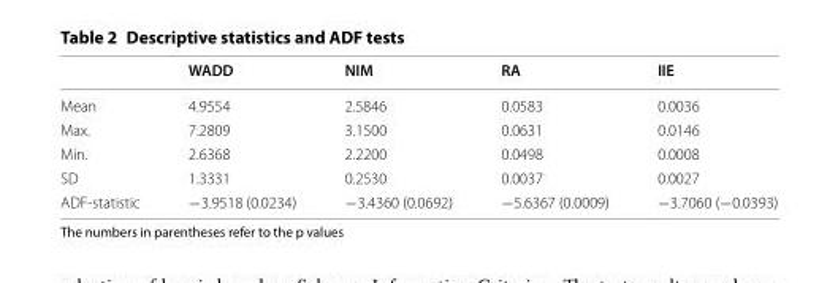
<table><thead><tr><td></td><td>WADD</td><td>NIM</td><td>RA</td><td>IIE</td></tr></thead><tbody><tr><td>Mean</td><td>4.9554</td><td>2.5846</td><td>0.0583</td><td>0.0036</td></tr><tr><td>Max.</td><td>7.2809</td><td>3.1500</td><td>0.0631</td><td>0.0146</td></tr><tr><td>Min.</td><td>2.6368</td><td>2.2200</td><td>0.0498</td><td>0.0008</td></tr><tr><td>SD</td><td>1.3331</td><td>0.2530</td><td>0.0037</td><td>0.0027</td></tr><tr><td>ADF-statistic</td><td>−3.9518 (0.0234)</td><td>−3.4360 (0.0692)</td><td>−5.6367 (0.0009)</td><td>−3.7060 (−0.0393)</td></tr></tbody></table>